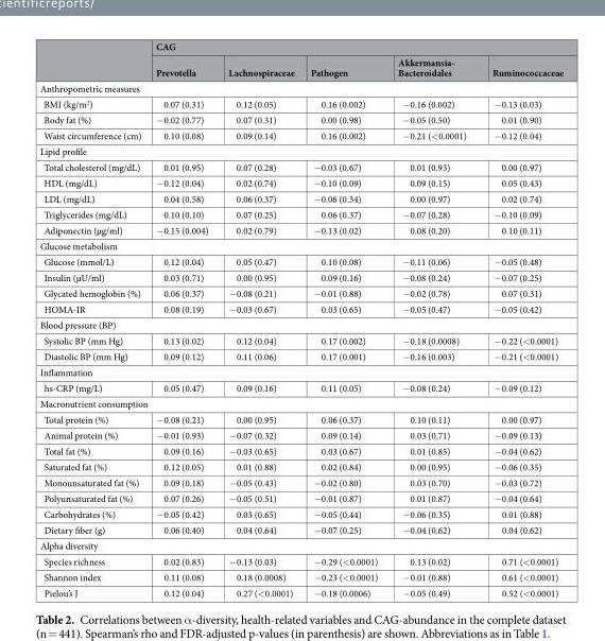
<table><thead><tr><td rowspan="2"></td><td colspan="5">CAG</td></tr><tr><td>Prevotella</td><td>Lachnospiraceae</td><td>Pathogen</td><td>Akkermansia- Bacteroidales</td><td>Ruminococcaceae</td></tr></thead><tbody><tr><td colspan="6">Anthropometric measures</td></tr><tr><td>BMI (kg/m<sup>2</sup>)</td><td>0.07 (0.31)</td><td>0.12 (0.05)</td><td>0.16 (0.002)</td><td>−0.16 (0.002)</td><td>−0.13 (0.03)</td></tr><tr><td>Body fat (%)</td><td>−0.02 (0.77)</td><td>0.07 (0.31)</td><td>0.00 (0.98)</td><td>−0.05 (0.50)</td><td>0.01 (0.90)</td></tr><tr><td>Waist circumference (cm)</td><td>0.10 (0.08)</td><td>0.09 (0.14)</td><td>0.16 (0.002)</td><td>−0.21 (&lt;0.0001)</td><td>−0.12 (0.04)</td></tr><tr><td colspan="6">Lipid profile</td></tr><tr><td>Total cholesterol (mg/dL)</td><td>0.01 (0.95)</td><td>0.07 (0.28)</td><td>−0.03 (0.67)</td><td>0.01 (0.93)</td><td>0.00 (0.97)</td></tr><tr><td>HDL (mg/dL)</td><td>−0.12 (0.04)</td><td>0.02 (0.74)</td><td>−0.10 (0.09)</td><td>0.09 (0.15)</td><td>0.05 (0.43)</td></tr><tr><td>LDL (mg/dL)</td><td>0.04 (0.58)</td><td>0.06 (0.37)</td><td>−0.06 (0.34)</td><td>0.00 (0.97)</td><td>0.02 (0.74)</td></tr><tr><td>Triglycerides (mg/dL)</td><td>0.10 (0.10)</td><td>0.07 (0.25)</td><td>0.06 (0.37)</td><td>−0.07 (0.28)</td><td>−0.10 (0.09)</td></tr><tr><td>Adiponectin (µg/ml)</td><td>−0.15 (0.004)</td><td>0.02 (0.79)</td><td>−0.13 (0.02)</td><td>0.08 (0.20)</td><td>0.10 (0.11)</td></tr><tr><td colspan="6">Glucose metabolism</td></tr><tr><td>Glucose (mmol/L)</td><td>0.12 (0.04)</td><td>0.05 (0.47)</td><td>0.10 (0.08)</td><td>−0.11 (0.06)</td><td>−0.05 (0.48)</td></tr><tr><td>Insulin (µU/ml)</td><td>0.03 (0.71)</td><td>0.00 (0.95)</td><td>0.09 (0.16)</td><td>−0.08 (0.24)</td><td>−0.07 (0.25)</td></tr><tr><td>Glycated hemoglobin (%)</td><td>0.06 (0.37)</td><td>−0.08 (0.21)</td><td>−0.01 (0.88)</td><td>−0.02 (0.78)</td><td>0.07 (0.31)</td></tr><tr><td>HOMA-IR</td><td>0.08 (0.19)</td><td>−0.03 (0.67)</td><td>0.03 (0.65)</td><td>−0.05 (0.47)</td><td>−0.05 (0.42)</td></tr><tr><td colspan="6">Blood pressure (BP)</td></tr><tr><td>Systolic BP (mm Hg)</td><td>0.13 (0.02)</td><td>0.12 (0.04)</td><td>0.17 (0.002)</td><td>−0.18 (0.0008)</td><td>−0.22 (&lt;0.0001)</td></tr><tr><td>Diastolic BP (mm Hg)</td><td>0.09 (0.12)</td><td>0.11 (0.06)</td><td>0.17 (0.001)</td><td>−0.16 (0.003)</td><td>−0.21 (&lt;0.0001)</td></tr><tr><td colspan="6">Inflammation</td></tr><tr><td>hs-CRP (mg/L)</td><td>0.05 (0.47)</td><td>0.09 (0.16)</td><td>0.11 (0.05)</td><td>−0.08 (0.24)</td><td>−0.09 (0.12)</td></tr><tr><td colspan="6">Macronutrient consumption</td></tr><tr><td>Total protein (%)</td><td>−0.08 (0.21)</td><td>0.00 (0.95)</td><td>0.06 (0.37)</td><td>0.10 (0.11)</td><td>0.00 (0.97)</td></tr><tr><td>Animal protein (%)</td><td>−0.01 (0.93)</td><td>−0.07 (0.32)</td><td>0.09 (0.14)</td><td>0.03 (0.71)</td><td>−0.09 (0.13)</td></tr><tr><td>Total fat (%)</td><td>0.09 (0.16)</td><td>−0.03 (0.65)</td><td>0.03 (0.67)</td><td>0.01 (0.85)</td><td>−0.04 (0.62)</td></tr><tr><td>Saturated fat (%)</td><td>0.12 (0.05)</td><td>0.01 (0.88)</td><td>0.02 (0.84)</td><td>0.00 (0.95)</td><td>−0.06 (0.35)</td></tr><tr><td>Monounsaturated fat (%)</td><td>0.09 (0.18)</td><td>−0.05 (0.43)</td><td>−0.02 (0.80)</td><td>0.03 (0.70)</td><td>−0.03 (0.72)</td></tr><tr><td>Polyunsaturated fat (%)</td><td>0.07 (0.26)</td><td>−0.05 (0.51)</td><td>−0.01 (0.87)</td><td>0.01 (0.87)</td><td>−0.04 (0.64)</td></tr><tr><td>Carbohydrates (%)</td><td>−0.05 (0.42)</td><td>0.03 (0.65)</td><td>−0.05 (0.44)</td><td>−0.06 (0.35)</td><td>0.01 (0.88)</td></tr><tr><td>Dietary fiber (g)</td><td>0.06 (0.40)</td><td>0.04 (0.64)</td><td>−0.07 (0.25)</td><td>−0.04 (0.62)</td><td>0.04 (0.62)</td></tr><tr><td colspan="6">Alpha diversity</td></tr><tr><td>Species richness</td><td>0.02 (0.83)</td><td>−0.13 (0.03)</td><td>−0.29 (&lt;0.0001)</td><td>0.13 (0.02)</td><td>0.71 (&lt;0.0001)</td></tr><tr><td>Shannon index</td><td>0.11 (0.08)</td><td>0.18 (0.0008)</td><td>−0.23 (&lt;0.0001)</td><td>−0.01 (0.88)</td><td>0.61 (&lt;0.0001)</td></tr><tr><td>Pielou’s J</td><td>0.12 (0.04)</td><td>0.27 (&lt;0.0001)</td><td>−0.18 (0.0006)</td><td>−0.05 (0.49)</td><td>0.52 (&lt;0.0001)</td></tr></tbody></table>